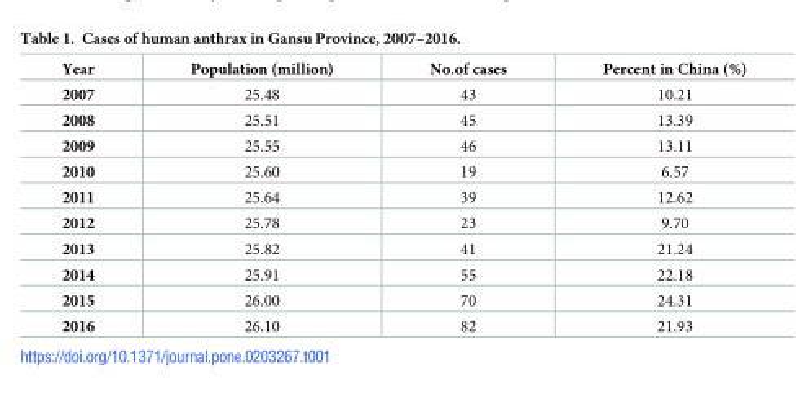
<table><thead><tr><td>Year</td><td>Population (million)</td><td>No.of cases</td><td>Percent in China (%)</td></tr></thead><tbody><tr><td>2007</td><td>25.48</td><td>43</td><td>10.21</td></tr><tr><td>2008</td><td>25.51</td><td>45</td><td>13.39</td></tr><tr><td>2009</td><td>25.55</td><td>46</td><td>13.11</td></tr><tr><td>2010</td><td>25.60</td><td>19</td><td>6.57</td></tr><tr><td>2011</td><td>25.64</td><td>39</td><td>12.62</td></tr><tr><td>2012</td><td>25.78</td><td>23</td><td>9.70</td></tr><tr><td>2013</td><td>25.82</td><td>41</td><td>21.24</td></tr><tr><td>2014</td><td>25.91</td><td>55</td><td>22.18</td></tr><tr><td>2015</td><td>26.00</td><td>70</td><td>24.31</td></tr><tr><td>2016</td><td>26.10</td><td>82</td><td>21.93</td></tr></tbody></table>